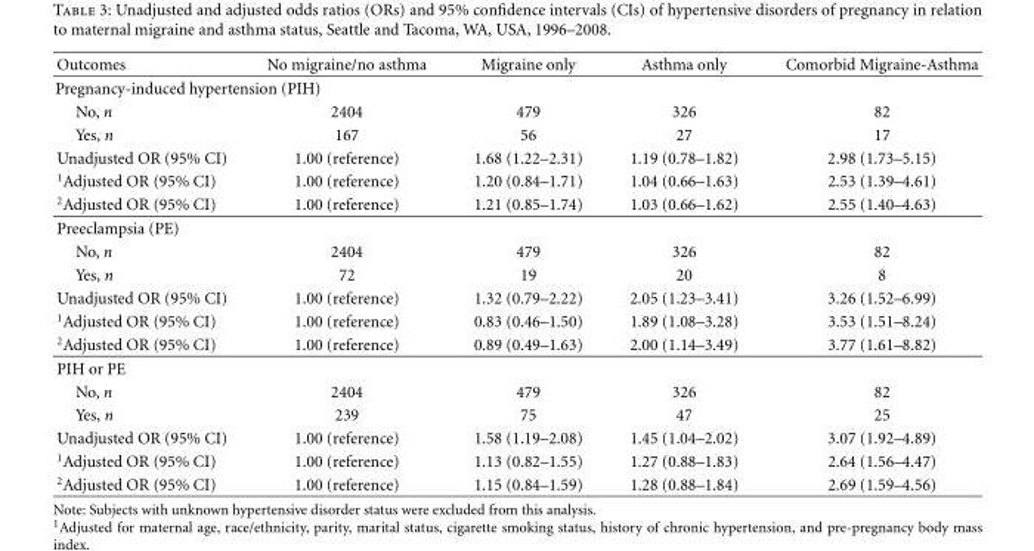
<table><thead><tr><td>Outcomes</td><td>No migraine/no asthma</td><td>Migraine only</td><td>Asthma only</td><td>Comorbid Migraine-Asthma</td></tr></thead><tbody><tr><td colspan="5">Pregnancy-induced hypertension (PIH)</td></tr><tr><td>No, n</td><td>2404</td><td>479</td><td>326</td><td>82</td></tr><tr><td>Yes, n</td><td>167</td><td>56</td><td>27</td><td>17</td></tr><tr><td>Unadjusted OR (95% CI)</td><td>1.00 (reference)</td><td>1.68 (1.22–2.31)</td><td>1.19 (0.78–1.82)</td><td>2.98 (1.73–5.15)</td></tr><tr><td><sup>1</sup>Adjusted OR (95% CI)</td><td>1.00 (reference)</td><td>1.20 (0.84–1.71)</td><td>1.04 (0.66–1.63)</td><td>2.53 (1.39–4.61)</td></tr><tr><td><sup>2</sup>Adjusted OR (95% CI)</td><td>1.00 (reference)</td><td>1.21 (0.85–1.74)</td><td>1.03 (0.66–1.62)</td><td>2.55 (1.40–4.63)</td></tr><tr><td colspan="5">Preeclampsia (PE)</td></tr><tr><td>No, n</td><td>2404</td><td>479</td><td>326</td><td>82</td></tr><tr><td>Yes, n</td><td>72</td><td>19</td><td>20</td><td>8</td></tr><tr><td>Unadjusted OR (95% CI)</td><td>1.00 (reference)</td><td>1.32 (0.79–2.22)</td><td>2.05 (1.23–3.41)</td><td>3.26 (1.52–6.99)</td></tr><tr><td><sup>1</sup>Adjusted OR (95% CI)</td><td>1.00 (reference)</td><td>0.83 (0.46–1.50)</td><td>1.89 (1.08–3.28)</td><td>3.53 (1.51–8.24)</td></tr><tr><td><sup>2</sup>Adjusted OR (95% CI)</td><td>1.00 (reference)</td><td>0.89 (0.49–1.63)</td><td>2.00 (1.14–3.49)</td><td>3.77 (1.61–8.82)</td></tr><tr><td colspan="5">PIH or PE</td></tr><tr><td>No, n</td><td>2404</td><td>479</td><td>326</td><td>82</td></tr><tr><td>Yes, n</td><td>239</td><td>75</td><td>47</td><td>25</td></tr><tr><td>Unadjusted OR (95% CI)</td><td>1.00 (reference)</td><td>1.58 (1.19–2.08)</td><td>1.45 (1.04–2.02)</td><td>3.07 (1.92–4.89)</td></tr><tr><td><sup>1</sup>Adjusted OR (95% CI)</td><td>1.00 (reference)</td><td>1.13 (0.82–1.55)</td><td>1.27 (0.88–1.83)</td><td>2.64 (1.56–4.47)</td></tr><tr><td><sup>2</sup>Adjusted OR (95% CI)</td><td>1.00 (reference)</td><td>1.15 (0.84–1.59)</td><td>1.28 (0.88–1.84)</td><td>2.69 (1.59–4.56)</td></tr></tbody></table>